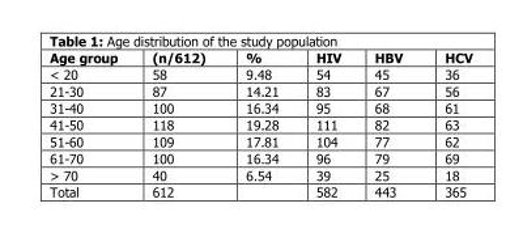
<table><thead><tr><td>Age group</td><td>(n/612)</td><td>%</td><td>HIV</td><td>HBV</td><td>HCV</td></tr></thead><tbody><tr><td>&lt; 20</td><td>58</td><td>9.48</td><td>54</td><td>45</td><td>36</td></tr><tr><td>21-30</td><td>87</td><td>14.21</td><td>83</td><td>67</td><td>56</td></tr><tr><td>31-40</td><td>100</td><td>16.34</td><td>95</td><td>68</td><td>61</td></tr><tr><td>41-50</td><td>118</td><td>19.28</td><td>111</td><td>82</td><td>63</td></tr><tr><td>51-60</td><td>109</td><td>17.81</td><td>104</td><td>77</td><td>62</td></tr><tr><td>61-70</td><td>100</td><td>16.34</td><td>96</td><td>79</td><td>69</td></tr><tr><td>&gt; 70</td><td>40</td><td>6.54</td><td>39</td><td>25</td><td>18</td></tr><tr><td>Total</td><td>612</td><td></td><td>582</td><td>443</td><td>365</td></tr></tbody></table>